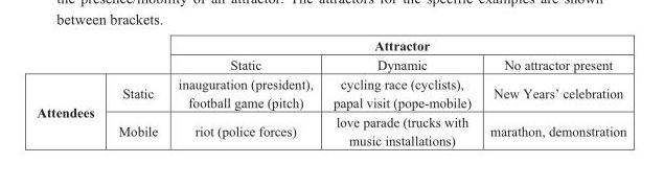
<table><thead><tr><td rowspan="2"></td><td rowspan="2"></td><td colspan="3">Attractor</td></tr><tr><td>Static</td><td>Dynamic</td><td>No attractor present</td></tr></thead><tbody><tr><td rowspan="2">Attendees</td><td>Static</td><td>inauguration (president), football game (pitch)</td><td>cycling race (cyclists), papal visit (pope-mobile)</td><td>New Years’ celebration</td></tr><tr><td>Mobile</td><td>riot (police forces)</td><td>love parade (trucks with music installations)</td><td>marathon, demonstration</td></tr></tbody></table>